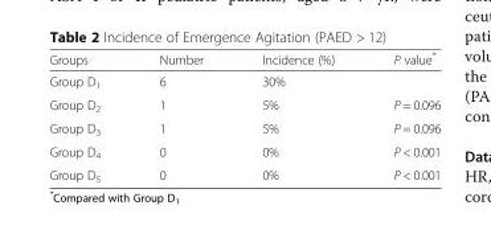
<table><thead><tr><td>Groups</td><td>Number</td><td>Incidence (%)</td><td>P value*</td></tr></thead><tbody><tr><td>Group D<sub>1</sub></td><td>6</td><td>30%</td><td></td></tr><tr><td>Group D<sub>2</sub></td><td>1</td><td>5%</td><td>P = 0.096</td></tr><tr><td>Group D<sub>3</sub></td><td>1</td><td>5%</td><td>P = 0.096</td></tr><tr><td>Group D<sub>4</sub></td><td>0</td><td>0%</td><td>P &lt; 0.001</td></tr><tr><td>Group D<sub>5</sub></td><td>0</td><td>0%</td><td>P &lt; 0.001</td></tr></tbody></table>